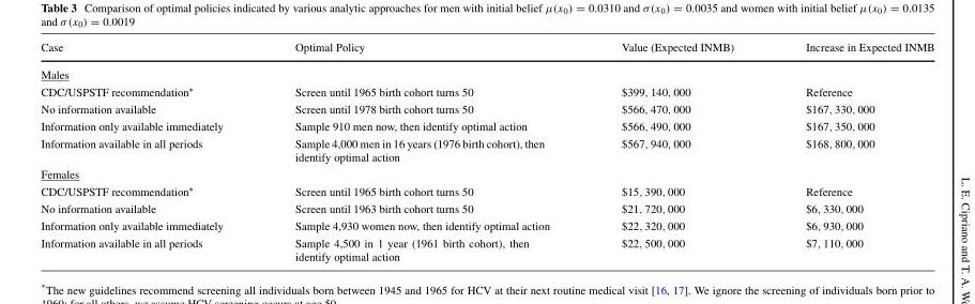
<table><thead><tr><td>Case</td><td>Optimal Policy</td><td>Value (Expected INMB)</td><td>Increase in Expected INMB</td></tr></thead><tbody><tr><td colspan="4">Males</td></tr><tr><td>CDC/USPSTF recommendation∗</td><td>Screen until 1965 birth cohort turns 50</td><td>$399, 140, 000</td><td>Reference</td></tr><tr><td>No information available</td><td>Screen until 1978 birth cohort turns 50</td><td>$566, 470, 000</td><td>$167, 330, 000</td></tr><tr><td>Information only available immediately</td><td>Sample 910 men now, then identify optimal action</td><td>$566, 490, 000</td><td>$167, 350, 000</td></tr><tr><td>Information available in all periods</td><td>Sample 4,000 men in 16 years (1976 birth cohort), then identify optimal action</td><td>$567, 940, 000</td><td>$168, 800, 000</td></tr><tr><td colspan="4">Females</td></tr><tr><td>CDC/USPSTF recommendation∗</td><td>Screen until 1965 birth cohort turns 50</td><td>$15, 390, 000</td><td>Reference</td></tr><tr><td>No information available</td><td>Screen until 1963 birth cohort turns 50</td><td>$21, 720, 000</td><td>$6, 330, 000</td></tr><tr><td>Information only available immediately</td><td>Sample 4,930 women now, then identify optimal action</td><td>$22, 320, 000</td><td>$6, 930, 000</td></tr><tr><td>Information available in all periods</td><td>Sample 4,500 in 1 year (1961 birth cohort), then identify optimal action</td><td>$22, 500, 000</td><td>$7, 110, 000</td></tr></tbody></table>